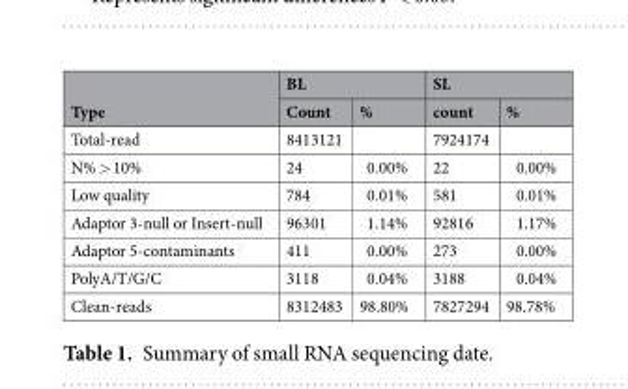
<table><thead><tr><td rowspan="2">Type</td><td colspan="2">BL</td><td colspan="2">SL</td></tr><tr><td>Count</td><td>%</td><td>count</td><td>%</td></tr></thead><tbody><tr><td>Total-read</td><td>8413121</td><td></td><td>7924174</td><td></td></tr><tr><td>N% &gt; 10%</td><td>24</td><td>0.00%</td><td>22</td><td>0.00%</td></tr><tr><td>Low quality</td><td>784</td><td>0.01%</td><td>581</td><td>0.01%</td></tr><tr><td>Adaptor 3-null or Insert-null</td><td>96301</td><td>1.14%</td><td>92816</td><td>1.17%</td></tr><tr><td>Adaptor 5-contaminants</td><td>411</td><td>0.00%</td><td>273</td><td>0.00%</td></tr><tr><td>PolyA/T/G/C</td><td>3118</td><td>0.04%</td><td>3188</td><td>0.04%</td></tr><tr><td>Clean-reads</td><td>8312483</td><td>98.80%</td><td>7827294</td><td>98.78%</td></tr></tbody></table>